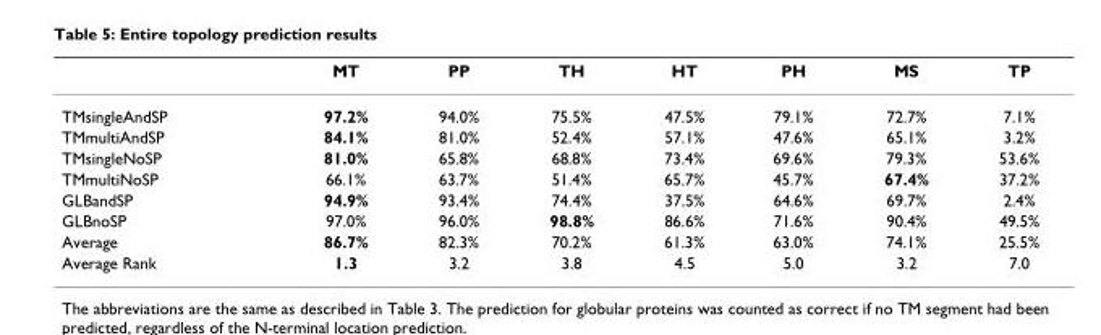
<table><thead><tr><td></td><td>MT</td><td>PP</td><td>TH</td><td>HT</td><td>PH</td><td>MS</td><td>TP</td></tr></thead><tbody><tr><td>TMsingleAndSP</td><td>97.2%</td><td>94.0%</td><td>75.5%</td><td>47.5%</td><td>79.1%</td><td>72.7%</td><td>7.1%</td></tr><tr><td>TMmultiAndSP</td><td>84.1%</td><td>81.0%</td><td>52.4%</td><td>57.1%</td><td>47.6%</td><td>65.1%</td><td>3.2%</td></tr><tr><td>TMsingleNoSP</td><td>81.0%</td><td>65.8%</td><td>68.8%</td><td>73.4%</td><td>69.6%</td><td>79.3%</td><td>53.6%</td></tr><tr><td>TMmultiNoSP</td><td>66.1%</td><td>63.7%</td><td>51.4%</td><td>65.7%</td><td>45.7%</td><td>67.4%</td><td>37.2%</td></tr><tr><td>GLBandSP</td><td>94.9%</td><td>93.4%</td><td>74.4%</td><td>37.5%</td><td>64.6%</td><td>69.7%</td><td>2.4%</td></tr><tr><td>GLBnoSP</td><td>97.0%</td><td>96.0%</td><td>98.8%</td><td>86.6%</td><td>71.6%</td><td>90.4%</td><td>49.5%</td></tr><tr><td>Average</td><td>86.7%</td><td>82.3%</td><td>70.2%</td><td>61.3%</td><td>63.0%</td><td>74.1%</td><td>25.5%</td></tr><tr><td>Average Rank</td><td>1.3</td><td>3.2</td><td>3.8</td><td>4.5</td><td>5.0</td><td>3.2</td><td>7.0</td></tr></tbody></table>